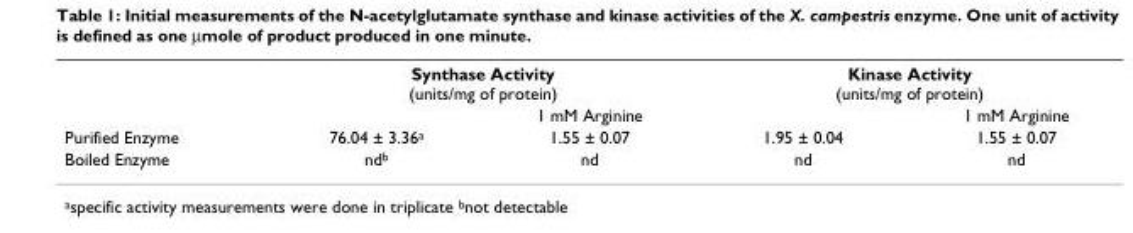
<table><thead><tr><td rowspan="2"></td><td colspan="2">Synthase Activity (units/mg of protein)</td><td colspan="2">Kinase Activity (units/mg of protein)</td></tr><tr><td></td><td>1 mM Arginine</td><td></td><td>1 mM Arginine</td></tr></thead><tbody><tr><td>Purified Enzyme</td><td>76.04 ± 3.36<sup>a</sup></td><td>1.55 ± 0.07</td><td>1.95 ± 0.04</td><td>1.55 ± 0.07</td></tr><tr><td>Boiled Enzyme</td><td>nd<sup>b</sup></td><td>nd</td><td>nd</td><td>nd</td></tr></tbody></table>